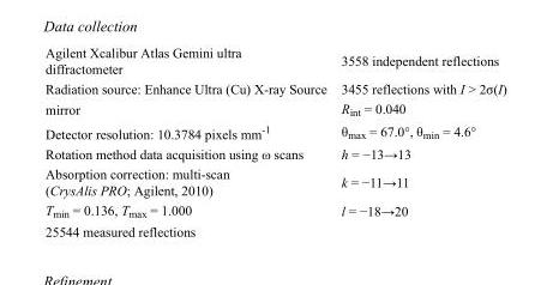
<table><tbody><tr><td>Agilent Xcalibur Atlas Gemini ultra diffractometer</td><td>3558 independent reflections</td></tr><tr><td>Radiation source: Enhance Ultra (Cu) X-ray Source</td><td>3455 reflections with I &gt; 2σ(I)</td></tr><tr><td>mirror</td><td>R<sub>int</sub> = 0.040</td></tr><tr><td>Detector resolution: 10.3784 pixels mm<sup>-1</sup></td><td>θ<sub>max</sub> = 67.0°, θ<sub>min</sub> = 4.6°</td></tr><tr><td>Rotation method data acquisition using ω scans</td><td>h = −13→13</td></tr><tr><td>Absorption correction: multi-scan (CrysAlis PRO; Agilent, 2010)</td><td>k = −11→11</td></tr><tr><td>T<sub>min</sub> = 0.136, T<sub>max</sub> = 1.000</td><td>l = −18→20</td></tr><tr><td>25544 measured reflections</td><td></td></tr></tbody></table>